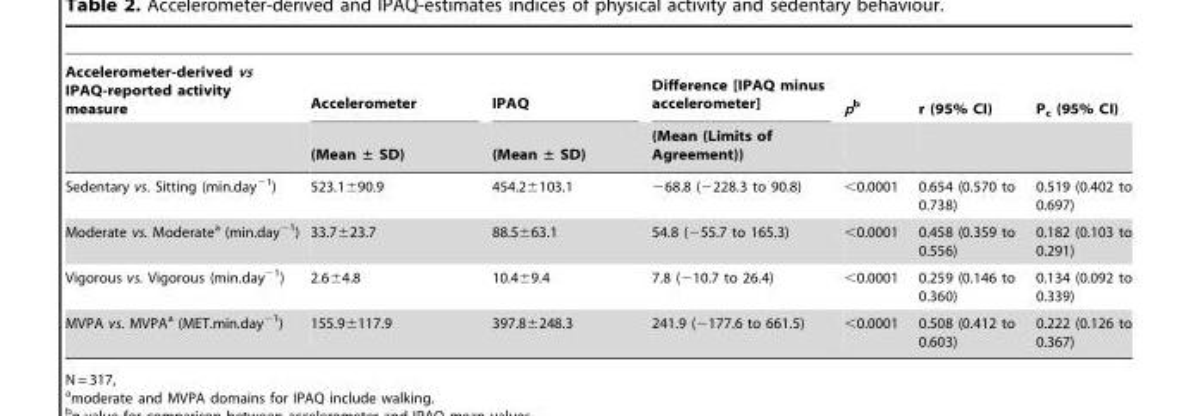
<table><thead><tr><td rowspan="2">Accelerometer-derived vs IPAQ-reported activity measure</td><td rowspan="2">Accelerometer (Mean ± SD)</td><td rowspan="2">IPAQ (Mean ± SD)</td><td rowspan="2">Difference [IPAQ minus accelerometer] (Mean (Limits of Agreement))</td><td rowspan="2">pb</td><td rowspan="2">r (95% CI)</td><td rowspan="2">P<sub>c</sub> (95% CI)</td></tr><tr></tr></thead><tbody><tr><td>Sedentary vs. Sitting (min.day<sup>−1</sup>)</td><td>523.1±90.9</td><td>454.2±103.1</td><td>−68.8 (−228.3 to 90.8)</td><td>&lt;0.0001</td><td>0.654 (0.570 to 0.738)</td><td>0.519 (0.402 to 0.697)</td></tr><tr><td>Moderate vs. Moderate<sup>a</sup> (min.day<sup>−1</sup>)</td><td>33.7±23.7</td><td>88.5±63.1</td><td>54.8 (−55.7 to 165.3)</td><td>&lt;0.0001</td><td>0.458 (0.359 to 0.556)</td><td>0.182 (0.103 to 0.291)</td></tr><tr><td>Vigorous vs. Vigorous (min.day<sup>−1</sup>)</td><td>2.6±4.8</td><td>10.4±9.4</td><td>7.8 (−10.7 to 26.4)</td><td>&lt;0.0001</td><td>0.259 (0.146 to 0.360)</td><td>0.134 (0.092 to 0.339)</td></tr><tr><td>MVPA vs. MVPA<sup>a</sup> (MET.min.day<sup>−1</sup>)</td><td>155.9±117.9</td><td>397.8±248.3</td><td>241.9 (−177.6 to 661.5)</td><td>&lt;0.0001</td><td>0.508 (0.412 to 0.603)</td><td>0.222 (0.126 to 0.367)</td></tr></tbody></table>